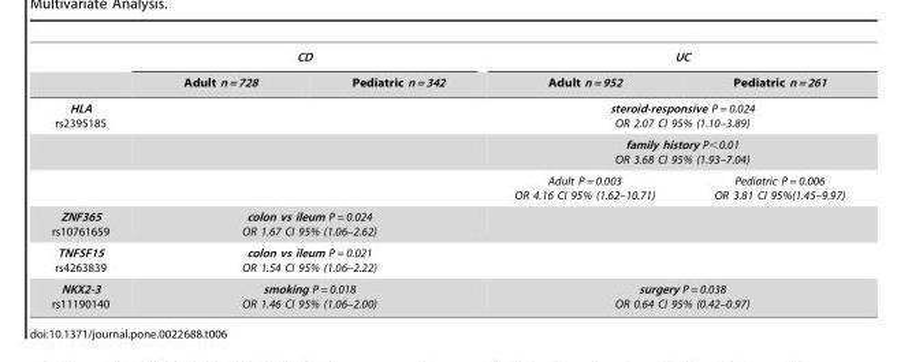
<table><thead><tr><td rowspan="2"></td><td colspan="2">CD</td><td colspan="2">UC</td></tr><tr><td>Adult n = 728</td><td>Pediatric n = 342</td><td>Adult n = 952</td><td>Pediatric n = 261</td></tr></thead><tbody><tr><td rowspan="3">HLA rs2395185</td><td colspan="2"></td><td colspan="2">steroid-responsive P = 0.024 OR 2.07 CI 95% (1.10–3.89)</td></tr><tr><td colspan="2"></td><td colspan="2">family history P&lt;0.01 OR 3.68 CI 95% (1.93–7.04)</td></tr><tr><td colspan="2"></td><td>Adult P = 0.003 OR 4.16 CI 95% (1.62–10.71)</td><td>Pediatric P = 0.006 OR 3.81 CI 95%(1.45–9.97)</td></tr><tr><td>ZNF365 rs10761659</td><td colspan="2">colon vs ileum P = 0.024 OR 1.67 CI 95% (1.06–2.62)</td><td colspan="2"></td></tr><tr><td>TNFSF15 rs4263839</td><td colspan="2">colon vs ileum P = 0.021 OR 1.54 CI 95% (1.06–2.22)</td><td colspan="2"></td></tr><tr><td>NKX2-3 rs11190140</td><td colspan="2">smoking P = 0.018 OR 1.46 CI 95% (1.06–2.00)</td><td colspan="2">surgery P = 0.038 OR 0.64 CI 95% (0.42–0.97)</td></tr></tbody></table>